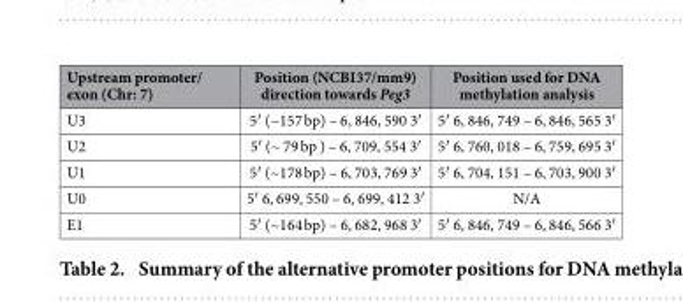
<table><thead><tr><td>Upstream promoter/ exon (Chr: 7)</td><td>Position (NCBI37/mm9) direction towards Peg3</td><td>Position used for DNA methylation analysis</td></tr></thead><tbody><tr><td>U3</td><td>5′ (~157 bp) – 6, 846, 590 3′</td><td>5′ 6, 846, 749 – 6, 846, 565 3′</td></tr><tr><td>U2</td><td>5′ (~ 79 bp ) – 6, 709, 554 3′</td><td>5′ 6, 760, 018 – 6, 759, 695 3′</td></tr><tr><td>U1</td><td>5′ (~178 bp) – 6, 703, 769 3′</td><td>5′ 6, 704, 151 – 6, 703, 900 3′</td></tr><tr><td>U0</td><td>5′ 6, 699, 550 – 6, 699, 412 3′</td><td>N/A</td></tr><tr><td>E1</td><td>5′ (~164 bp) – 6, 682, 968 3′</td><td>5′ 6, 846, 749 – 6, 846, 566 3′</td></tr></tbody></table>